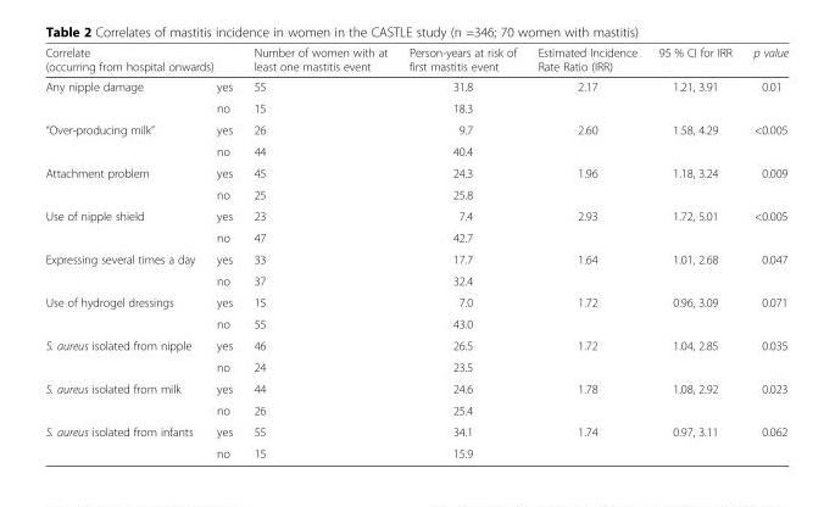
<table><thead><tr><td colspan="2">Correlate (occurring from hospital onwards)</td><td rowspan="2">Number of women with at least one mastitis event 55</td><td rowspan="2">Person-years at risk of first mastitis event 31.8</td><td rowspan="2">Estimated Incidence Rate Ratio (IRR) 2.17</td><td rowspan="2">95 % CI for IRR 1.21, 3.91</td><td rowspan="2">p value 0.01</td></tr><tr><td>Any nipple damage</td><td>yes</td></tr></thead><tbody><tr><td></td><td>no</td><td>15</td><td>18.3</td><td></td><td></td><td></td></tr><tr><td rowspan="2">“Over-producing milk”</td><td>yes</td><td>26</td><td>9.7</td><td>2.60</td><td>1.58, 4.29</td><td>&lt;0.005</td></tr><tr><td>no</td><td>44</td><td>40.4</td><td></td><td></td><td></td></tr><tr><td rowspan="2">Attachment problem</td><td>yes</td><td>45</td><td>24.3</td><td>1.96</td><td>1.18, 3.24</td><td>0.009</td></tr><tr><td>no</td><td>25</td><td>25.8</td><td></td><td></td><td></td></tr><tr><td rowspan="2">Use of nipple shield</td><td>yes</td><td>23</td><td>7.4</td><td>2.93</td><td>1.72, 5.01</td><td>&lt;0.005</td></tr><tr><td>no</td><td>47</td><td>42.7</td><td></td><td></td><td></td></tr><tr><td rowspan="2">Expressing several times a day</td><td>yes</td><td>33</td><td>17.7</td><td>1.64</td><td>1.01, 2.68</td><td>0.047</td></tr><tr><td>no</td><td>37</td><td>32.4</td><td></td><td></td><td></td></tr><tr><td rowspan="2">Use of hydrogel dressings</td><td>yes</td><td>15</td><td>7.0</td><td>1.72</td><td>0.96, 3.09</td><td>0.071</td></tr><tr><td>no</td><td>55</td><td>43.0</td><td></td><td></td><td></td></tr><tr><td rowspan="2">S. aureus isolated from nipple</td><td>yes</td><td>46</td><td>26.5</td><td>1.72</td><td>1.04, 2.85</td><td>0.035</td></tr><tr><td>no</td><td>24</td><td>23.5</td><td></td><td></td><td></td></tr><tr><td rowspan="2">S. aureus isolated from milk</td><td>yes</td><td>44</td><td>24.6</td><td>1.78</td><td>1.08, 2.92</td><td>0.023</td></tr><tr><td>no</td><td>26</td><td>25.4</td><td></td><td></td><td></td></tr><tr><td rowspan="2">S. aureus isolated from infants</td><td>yes</td><td>55</td><td>34.1</td><td>1.74</td><td>0.97, 3.11</td><td>0.062</td></tr><tr><td>no</td><td>15</td><td>15.9</td><td></td><td></td><td></td></tr></tbody></table>